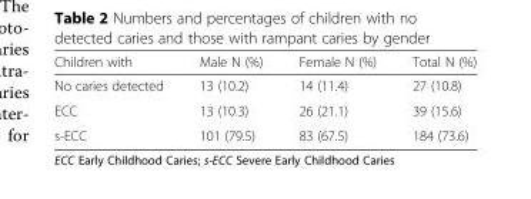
<table><thead><tr><td>Children with</td><td>Male N (%)</td><td>Female N (%)</td><td>Total N (%)</td></tr></thead><tbody><tr><td>No caries detected</td><td>13 (10.2)</td><td>14 (11.4)</td><td>27 (10.8)</td></tr><tr><td>ECC</td><td>13 (10.3)</td><td>26 (21.1)</td><td>39 (15.6)</td></tr><tr><td>s-ECC</td><td>101 (79.5)</td><td>83 (67.5)</td><td>184 (73.6)</td></tr></tbody></table>